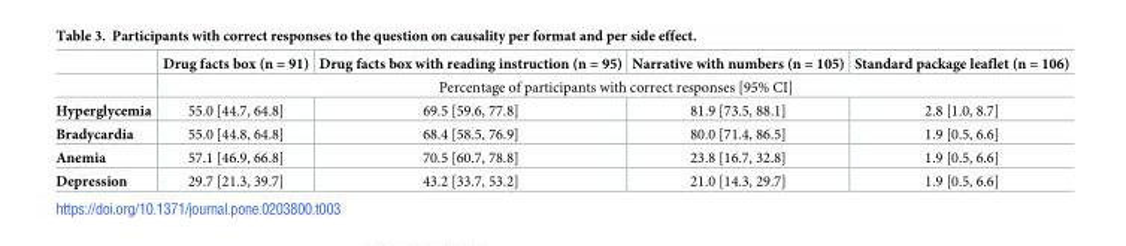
<table><thead><tr><td></td><td>Drug facts box (n = 91)</td><td>Drug facts box with reading instruction (n = 95)</td><td>Narrative with numbers (n = 105)</td><td>Standard package leaflet (n = 106)</td></tr></thead><tbody><tr><td></td><td colspan="4">Percentage of participants with correct responses [95% CI]</td></tr><tr><td>Hyperglycemia</td><td>55.0 [44.7, 64.8]</td><td>69.5 [59.6, 77.8]</td><td>81.9 [73.5, 88.1]</td><td>2.8 [1.0, 8.7]</td></tr><tr><td>Bradycardia</td><td>55.0 [44.8, 64.8]</td><td>68.4 [58.5, 76.9]</td><td>80.0 [71.4, 86.5]</td><td>1.9 [0.5, 6.6]</td></tr><tr><td>Anemia</td><td>57.1 [46.9, 66.8]</td><td>70.5 [60.7, 78.8]</td><td>23.8 [16.7, 32.8]</td><td>1.9 [0.5, 6.6]</td></tr><tr><td>Depression</td><td>29.7 [21.3, 39.7]</td><td>43.2 [33.7, 53.2]</td><td>21.0 [14.3, 29.7]</td><td>1.9 [0.5, 6.6]</td></tr></tbody></table>